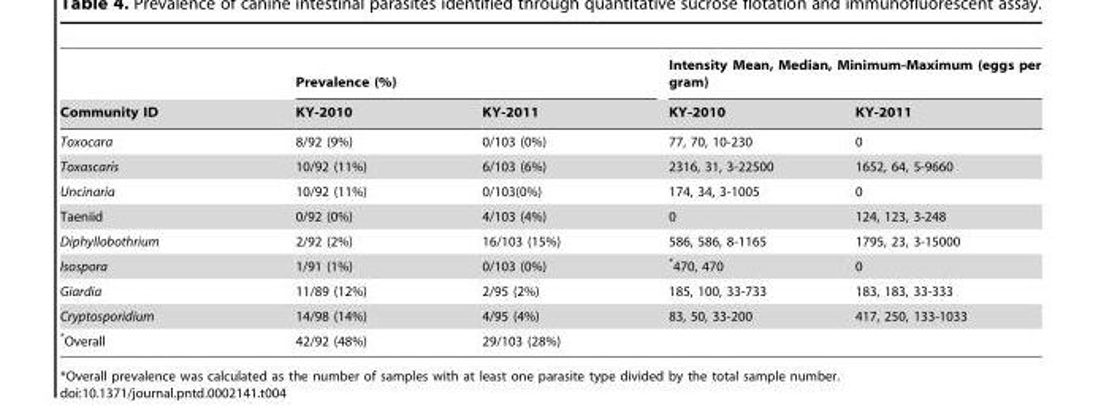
<table><thead><tr><td rowspan="2">Community ID</td><td colspan="2">Prevalence (%)</td><td colspan="2">Intensity Mean, Median, Minimum-Maximum (eggs per gram)</td></tr><tr><td>KY-2010</td><td>KY-2011</td><td>KY-2010</td><td>KY-2011</td></tr></thead><tbody><tr><td>Toxocara</td><td>8/92 (9%)</td><td>0/103 (0%)</td><td>77, 70, 10-230</td><td>0</td></tr><tr><td>Toxascaris</td><td>10/92 (11%)</td><td>6/103 (6%)</td><td>2316, 31, 3-22500</td><td>1652, 64, 5-9660</td></tr><tr><td>Uncinaria</td><td>10/92 (11%)</td><td>0/103(0%)</td><td>174, 34, 3-1005</td><td>0</td></tr><tr><td>Taeniid</td><td>0/92 (0%)</td><td>4/103 (4%)</td><td>0</td><td>124, 123, 3-248</td></tr><tr><td>Diphyllobothrium</td><td>2/92 (2%)</td><td>16/103 (15%)</td><td>586, 586, 8-1165</td><td>1795, 23, 3-15000</td></tr><tr><td>Isospora</td><td>1/91 (1%)</td><td>0/103 (0%)</td><td>*470, 470</td><td>0</td></tr><tr><td>Giardia</td><td>11/89 (12%)</td><td>2/95 (2%)</td><td>185, 100, 33-733</td><td>183, 183, 33-333</td></tr><tr><td>Cryptosporidium</td><td>14/98 (14%)</td><td>4/95 (4%)</td><td>83, 50, 33-200</td><td>417, 250, 133-1033</td></tr><tr><td>*Overall</td><td>42/92 (48%)</td><td>29/103 (28%)</td><td></td><td></td></tr></tbody></table>